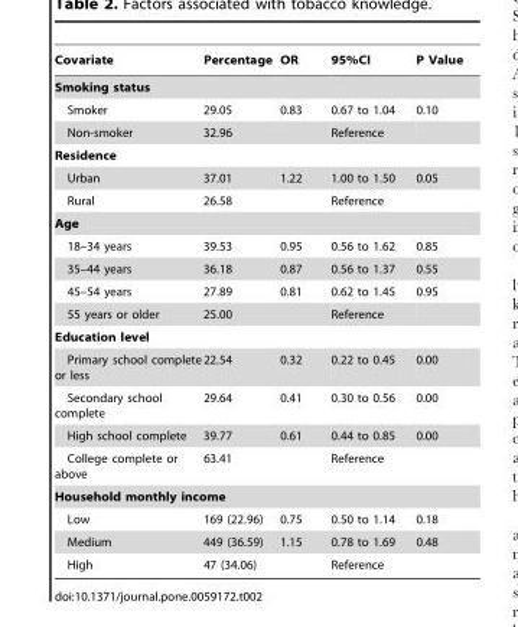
<table><thead><tr><td>Covariate</td><td>Percentage</td><td>OR</td><td>95%CI</td><td>P Value</td></tr></thead><tbody><tr><td colspan="5">Smoking status</td></tr><tr><td>Smoker</td><td>29.05</td><td>0.83</td><td>0.67 to 1.04</td><td>0.10</td></tr><tr><td>Non-smoker</td><td>32.96</td><td></td><td>Reference</td><td></td></tr><tr><td colspan="5">Residence</td></tr><tr><td>Urban</td><td>37.01</td><td>1.22</td><td>1.00 to 1.50</td><td>0.05</td></tr><tr><td>Rural</td><td>26.58</td><td></td><td>Reference</td><td></td></tr><tr><td colspan="5">Age</td></tr><tr><td>18–34 years</td><td>39.53</td><td>0.95</td><td>0.56 to 1.62</td><td>0.85</td></tr><tr><td>35–44 years</td><td>36.18</td><td>0.87</td><td>0.56 to 1.37</td><td>0.55</td></tr><tr><td>45–54 years</td><td>27.89</td><td>0.81</td><td>0.62 to 1.45</td><td>0.95</td></tr><tr><td>55 years or older</td><td>25.00</td><td></td><td>Reference</td><td></td></tr><tr><td colspan="5">Education level</td></tr><tr><td>Primary school complete or less</td><td>22.54</td><td>0.32</td><td>0.22 to 0.45</td><td>0.00</td></tr><tr><td>Secondary school complete</td><td>29.64</td><td>0.41</td><td>0.30 to 0.56</td><td>0.00</td></tr><tr><td>High school complete</td><td>39.77</td><td>0.61</td><td>0.44 to 0.85</td><td>0.00</td></tr><tr><td>College complete or above</td><td>63.41</td><td></td><td>Reference</td><td></td></tr><tr><td colspan="5">Household monthly income</td></tr><tr><td>Low</td><td>169 (22.96)</td><td>0.75</td><td>0.50 to 1.14</td><td>0.18</td></tr><tr><td>Medium</td><td>449 (36.59)</td><td>1.15</td><td>0.78 to 1.69</td><td>0.48</td></tr><tr><td>High</td><td>47 (34.06)</td><td></td><td>Reference</td><td></td></tr></tbody></table>